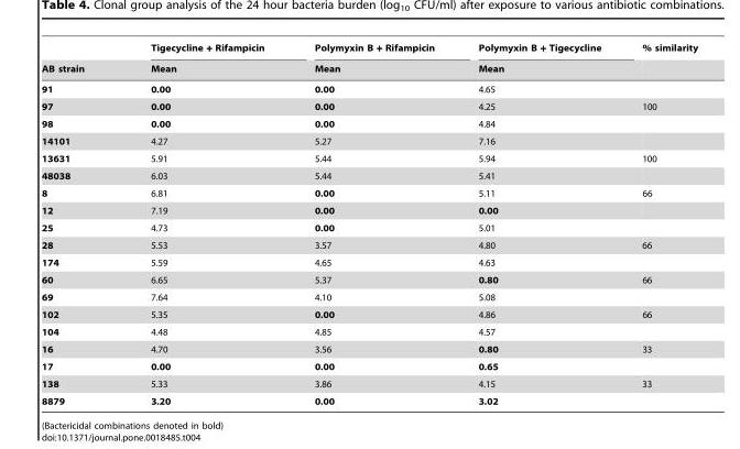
<table><thead><tr><td rowspan="2">AB strain</td><td rowspan="2">Tigecycline + Rifampicin Mean</td><td rowspan="2">Polymyxin B + Rifampicin Mean</td><td rowspan="2">Polymyxin B + Tigecycline Mean</td><td rowspan="2">% similarity</td></tr><tr></tr></thead><tbody><tr><td>91</td><td>0.00</td><td>0.00</td><td>4.65</td><td></td></tr><tr><td>97</td><td>0.00</td><td>0.00</td><td>4.25</td><td>100</td></tr><tr><td>98</td><td>0.00</td><td>0.00</td><td>4.84</td><td></td></tr><tr><td>14101</td><td>4.27</td><td>5.27</td><td>7.16</td><td></td></tr><tr><td>13631</td><td>5.91</td><td>5.44</td><td>5.94</td><td>100</td></tr><tr><td>48038</td><td>6.03</td><td>5.44</td><td>5.41</td><td></td></tr><tr><td>8</td><td>6.81</td><td>0.00</td><td>5.11</td><td>66</td></tr><tr><td>12</td><td>7.19</td><td>0.00</td><td>0.00</td><td></td></tr><tr><td>25</td><td>4.73</td><td>0.00</td><td>5.01</td><td></td></tr><tr><td>28</td><td>5.53</td><td>3.57</td><td>4.80</td><td>66</td></tr><tr><td>174</td><td>5.59</td><td>4.65</td><td>4.63</td><td></td></tr><tr><td>60</td><td>6.65</td><td>5.37</td><td>0.80</td><td>66</td></tr><tr><td>69</td><td>7.64</td><td>4.10</td><td>5.08</td><td></td></tr><tr><td>102</td><td>5.35</td><td>0.00</td><td>4.86</td><td>66</td></tr><tr><td>104</td><td>4.48</td><td>4.85</td><td>4.57</td><td></td></tr><tr><td>16</td><td>4.70</td><td>3.56</td><td>0.80</td><td>33</td></tr><tr><td>17</td><td>0.00</td><td>0.00</td><td>0.65</td><td></td></tr><tr><td>138</td><td>5.33</td><td>3.86</td><td>4.15</td><td>33</td></tr><tr><td>8879</td><td>3.20</td><td>0.00</td><td>3.02</td><td></td></tr></tbody></table>